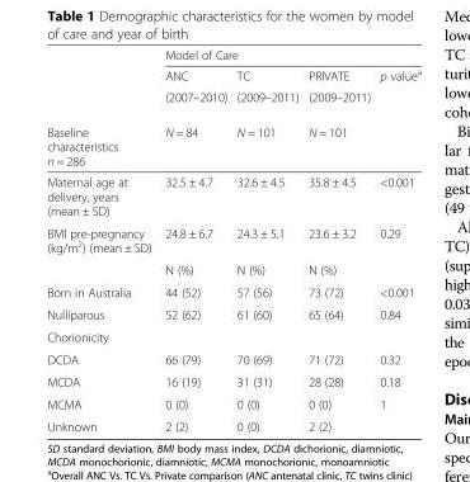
<table><thead><tr><td rowspan="4">Baseline characteristics n = 286</td><td colspan="4">Model of Care</td></tr><tr><td rowspan="3">ANC (2007–2010) N = 84</td><td rowspan="3">TC (2009–2011) N = 101</td><td rowspan="3">PRIVATE (2009–2011) N = 101</td><td rowspan="3">p value<sup>a</sup></td></tr><tr></tr><tr></tr></thead><tbody><tr><td>Maternal age at delivery, years (mean ± SD)</td><td>32.5 ± 4.7</td><td>32.6 ± 4.5</td><td>35.8 ± 4.5</td><td>&lt;0.001</td></tr><tr><td rowspan="2">BMI pre-pregnancy (kg/m<sup>2</sup>) (mean ± SD)</td><td>24.8 ± 6.7</td><td>24.3 ± 5.1</td><td>23.6 ± 3.2</td><td>0.29</td></tr><tr><td>N (%)</td><td>N (%)</td><td>N (%)</td><td></td></tr><tr><td>Born in Australia</td><td>44 (52)</td><td>57 (56)</td><td>73 (72)</td><td>&lt;0.001</td></tr><tr><td>Nulliparous</td><td>52 (62)</td><td>61 (60)</td><td>65 (64)</td><td>0.84</td></tr><tr><td colspan="5">Chorionicity</td></tr><tr><td>DCDA</td><td>66 (79)</td><td>70 (69)</td><td>71 (72)</td><td>0.32</td></tr><tr><td>MCDA</td><td>16 (19)</td><td>31 (31)</td><td>28 (28)</td><td>0.18</td></tr><tr><td>MCMA</td><td>0 (0)</td><td>0 (0)</td><td>0 (0)</td><td>1</td></tr><tr><td>Unknown</td><td>2 (2)</td><td>0 (0)</td><td>2 (2)</td><td></td></tr></tbody></table>